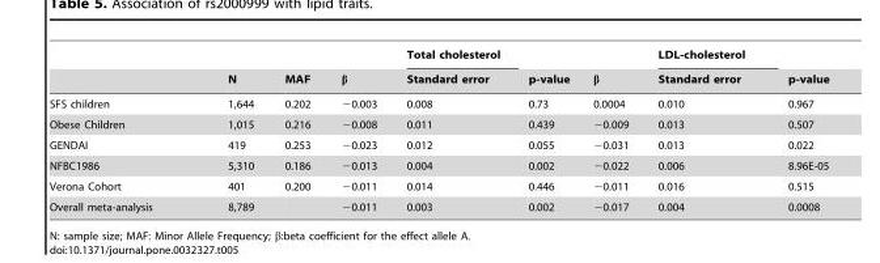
<table><thead><tr><td rowspan="2"></td><td rowspan="2">N</td><td rowspan="2">MAF</td><td rowspan="2">β</td><td rowspan="2">Total cholesterol Standard error</td><td rowspan="2">p-value</td><td rowspan="2">β</td><td rowspan="2">LDL-cholesterol Standard error</td><td rowspan="2">p-value</td></tr><tr></tr></thead><tbody><tr><td>SFS children</td><td>1,644</td><td>0.202</td><td>−0.003</td><td>0.008</td><td>0.73</td><td>0.0004</td><td>0.010</td><td>0.967</td></tr><tr><td>Obese Children</td><td>1,015</td><td>0.216</td><td>−0.008</td><td>0.011</td><td>0.439</td><td>−0.009</td><td>0.013</td><td>0.507</td></tr><tr><td>GENDAI</td><td>419</td><td>0.253</td><td>−0.023</td><td>0.012</td><td>0.055</td><td>−0.031</td><td>0.013</td><td>0.022</td></tr><tr><td>NFBC1986</td><td>5,310</td><td>0.186</td><td>−0.013</td><td>0.004</td><td>0.002</td><td>−0.022</td><td>0.006</td><td>8.96E-05</td></tr><tr><td>Verona Cohort</td><td>401</td><td>0.200</td><td>−0.011</td><td>0.014</td><td>0.446</td><td>−0.011</td><td>0.016</td><td>0.515</td></tr><tr><td>Overall meta-analysis</td><td>8,789</td><td></td><td>−0.011</td><td>0.003</td><td>0.002</td><td>−0.017</td><td>0.004</td><td>0.0008</td></tr></tbody></table>